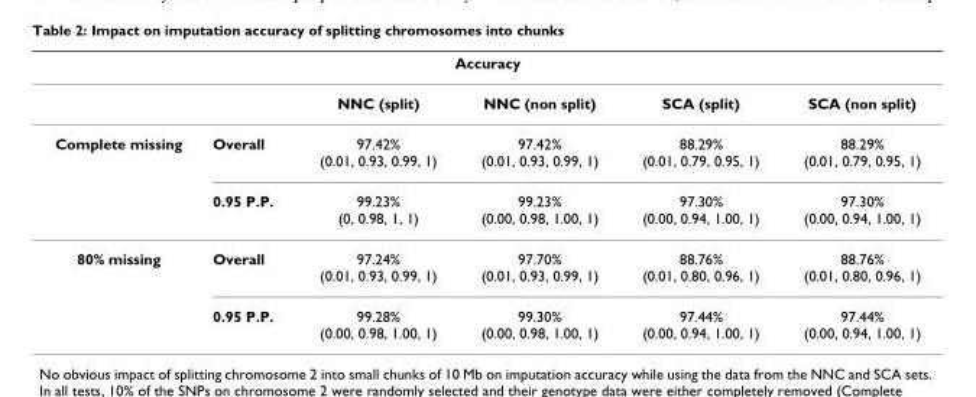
<table><thead><tr><td colspan="6">Accuracy</td></tr><tr><td></td><td></td><td>NNC (split)</td><td>NNC (non split)</td><td>SCA (split)</td><td>SCA (non split)</td></tr></thead><tbody><tr><td rowspan="2">Complete missing</td><td>Overall</td><td>97.42% (0.01, 0.93, 0.99, 1)</td><td>97.42% (0.01, 0.93, 0.99, 1)</td><td>88.29% (0.01, 0.79, 0.95, 1)</td><td>88.29% (0.01, 0.79, 0.95, 1)</td></tr><tr><td>0.95 P.P.</td><td>99.23% (0, 0.98, 1, 1)</td><td>99.23% (0.00, 0.98, 1.00, 1)</td><td>97.30% (0.00, 0.94, 1.00, 1)</td><td>97.30% (0.00, 0.94, 1.00, 1)</td></tr><tr><td rowspan="2">80% missing</td><td>Overall</td><td>97.24% (0.01, 0.93, 0.99, 1)</td><td>97.70% (0.01, 0.93, 0.99, 1)</td><td>88.76% (0.01, 0.80, 0.96, 1)</td><td>88.76% (0.01, 0.80, 0.96, 1)</td></tr><tr><td>0.95 P.P.</td><td>99.28% (0.00, 0.98, 1.00, 1)</td><td>99.30% (0.00, 0.98, 1.00, 1)</td><td>97.44% (0.00, 0.94, 1.00, 1)</td><td>97.44% (0.00, 0.94, 1.00, 1)</td></tr></tbody></table>